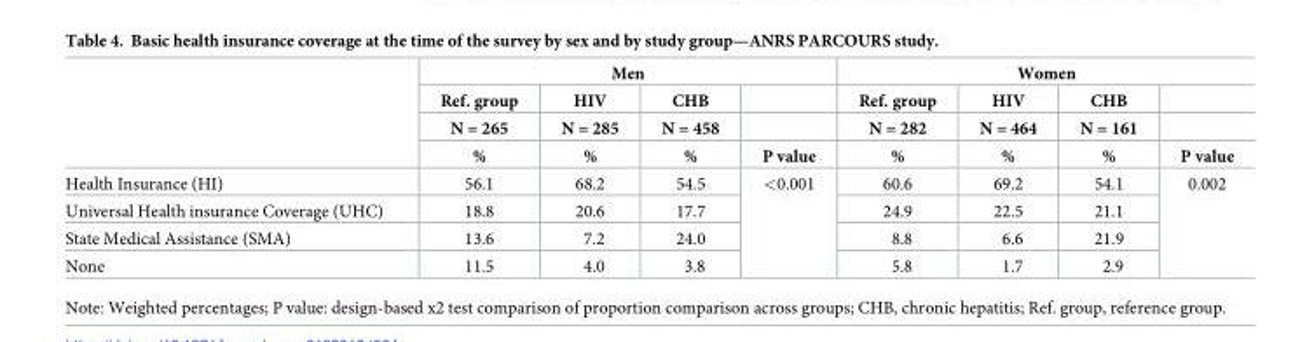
<table><thead><tr><td rowspan="4"></td><td colspan="4">Men</td><td colspan="4">Women</td></tr><tr><td rowspan="3">Ref. group N = 265 %</td><td rowspan="3">HIV N = 285 %</td><td rowspan="3">CHB N = 458 %</td><td rowspan="3">P value</td><td rowspan="3">Ref. group N = 282 %</td><td rowspan="3">HIV N = 464 %</td><td rowspan="3">CHB N = 161 %</td><td rowspan="3">P value</td></tr><tr></tr><tr></tr></thead><tbody><tr><td>Health Insurance (HI)</td><td>56.1</td><td>68.2</td><td>54.5</td><td rowspan="4">&lt;0.001</td><td>60.6</td><td>69.2</td><td>54.1</td><td rowspan="4">0.002</td></tr><tr><td>Universal Health insurance Coverage (UHC)</td><td>18.8</td><td>20.6</td><td>17.7</td><td>24.9</td><td>22.5</td><td>21.1</td></tr><tr><td>State Medical Assistance (SMA)</td><td>13.6</td><td>7.2</td><td>24.0</td><td>8.8</td><td>6.6</td><td>21.9</td></tr><tr><td>None</td><td>11.5</td><td>4.0</td><td>3.8</td><td>5.8</td><td>1.7</td><td>2.9</td></tr></tbody></table>